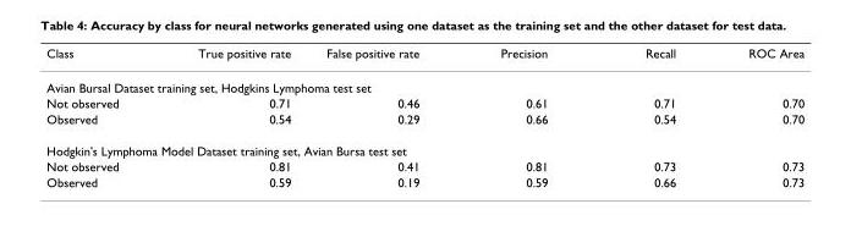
<table><thead><tr><td>Class</td><td>True positive rate</td><td>False positive rate</td><td>Precision</td><td>Recall</td><td>ROC Area</td></tr></thead><tbody><tr><td colspan="6">Avian Bursal Dataset training set, Hodgkins Lymphoma test set</td></tr><tr><td>Not observed</td><td>0.71</td><td>0.46</td><td>0.61</td><td>0.71</td><td>0.70</td></tr><tr><td>Observed</td><td>0.54</td><td>0.29</td><td>0.66</td><td>0.54</td><td>0.70</td></tr><tr><td colspan="6">Hodgkin&#x27;s Lymphoma Model Dataset training set, Avian Bursa test set</td></tr><tr><td>Not observed</td><td>0.81</td><td>0.41</td><td>0.81</td><td>0.73</td><td>0.73</td></tr><tr><td>Observed</td><td>0.59</td><td>0.19</td><td>0.59</td><td>0.66</td><td>0.73</td></tr></tbody></table>